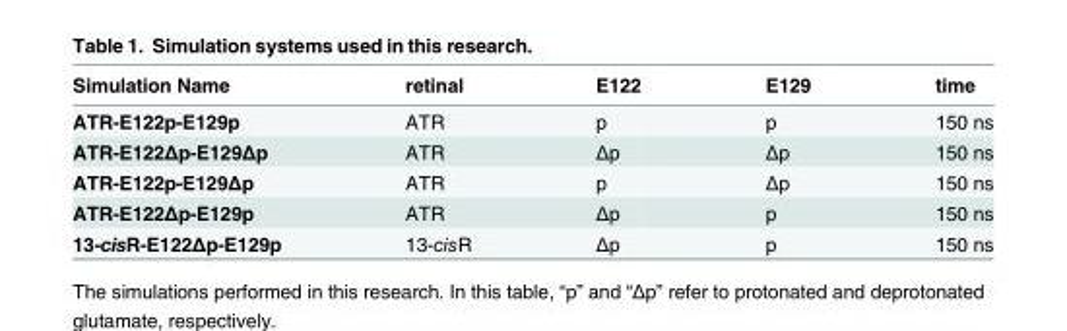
<table><thead><tr><td>Simulation Name</td><td>retinal</td><td>E122</td><td>E129</td><td>time</td></tr></thead><tbody><tr><td>ATR-E122p-E129p</td><td>ATR</td><td>p</td><td>p</td><td>150 ns</td></tr><tr><td>ATR-E122Δp-E129Δp</td><td>ATR</td><td>Δp</td><td>Δp</td><td>150 ns</td></tr><tr><td>ATR-E122p-E129Δp</td><td>ATR</td><td>p</td><td>Δp</td><td>150 ns</td></tr><tr><td>ATR-E122Δp-E129p</td><td>ATR</td><td>Δp</td><td>p</td><td>150 ns</td></tr><tr><td>13-cisR-E122Δp-E129p</td><td>13-cisR</td><td>Δp</td><td>p</td><td>150 ns</td></tr></tbody></table>